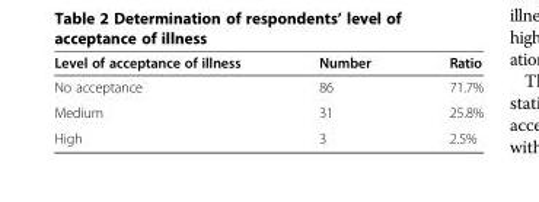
<table><thead><tr><td>Level of acceptance of illness</td><td>Number</td><td>Ratio</td></tr></thead><tbody><tr><td>No acceptance</td><td>86</td><td>71.7%</td></tr><tr><td>Medium</td><td>31</td><td>25.8%</td></tr><tr><td>High</td><td>3</td><td>2.5%</td></tr></tbody></table>